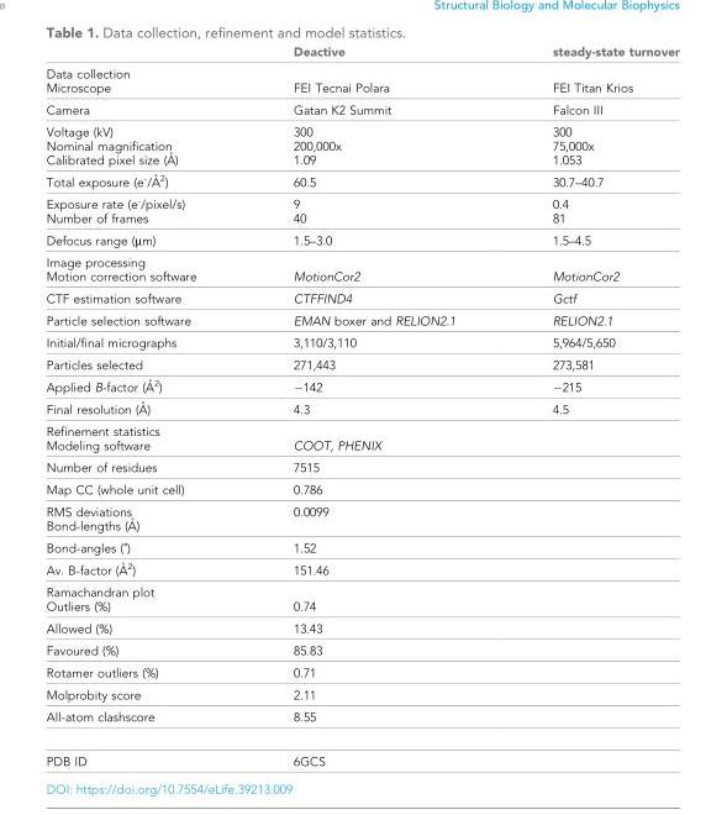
<table><thead><tr><td></td><td>Deactive</td><td>steady-state turnover</td></tr></thead><tbody><tr><td>Data collection Microscope</td><td>FEI Tecnai Polara</td><td>FEI Titan Krios</td></tr><tr><td>Camera</td><td>Gatan K2 Summit</td><td>Falcon III</td></tr><tr><td>Voltage (kV) Nominal magnification Calibrated pixel size (A˚ )</td><td>300 200,000x 1.09</td><td>300 75,000x 1.053</td></tr><tr><td>Total exposure (e-/A˚ 2)</td><td>60.5</td><td>30.7–40.7</td></tr><tr><td>Exposure rate (e<sup>-</sup>/pixel/s) Number of frames</td><td>9 40</td><td>0.4 81</td></tr><tr><td>Defocus range (μm)</td><td>1.5–3.0</td><td>1.5–4.5</td></tr><tr><td>Image processing Motion correction software</td><td>MotionCor2</td><td>MotionCor2</td></tr><tr><td>CTF estimation software</td><td>CTFFIND4</td><td>Gctf</td></tr><tr><td>Particle selection software</td><td>EMAN boxer and RELION2.1</td><td>RELION2.1</td></tr><tr><td>Initial/final micrographs</td><td>3,110/3,110</td><td>5,964/5,650</td></tr><tr><td>Particles selected</td><td>271,443</td><td>273,581</td></tr><tr><td>Applied B-factor (A˚ 2)</td><td>−142</td><td>−215</td></tr><tr><td>Final resolution (A˚ )</td><td>4.3</td><td>4.5</td></tr><tr><td>Refinement statistics Modeling software</td><td>COOT, PHENIX</td><td></td></tr><tr><td>Number of residues</td><td>7515</td><td></td></tr><tr><td>Map CC (whole unit cell)</td><td>0.786</td><td></td></tr><tr><td>RMS deviations Bond-lengths (A˚ )</td><td>0.0099</td><td></td></tr><tr><td>Bond-angles (˚)</td><td>1.52</td><td></td></tr><tr><td>Av. B-factor (A˚ 2)</td><td>151.46</td><td></td></tr><tr><td>Ramachandran plot Outliers (%)</td><td>0.74</td><td></td></tr><tr><td>Allowed (%)</td><td>13.43</td><td></td></tr><tr><td>Favoured (%)</td><td>85.83</td><td></td></tr><tr><td>Rotamer outliers (%)</td><td>0.71</td><td></td></tr><tr><td>Molprobity score</td><td>2.11</td><td></td></tr><tr><td>All-atom clashscore</td><td>8.55</td><td></td></tr><tr><td>PDB ID</td><td>6GCS</td><td></td></tr></tbody></table>